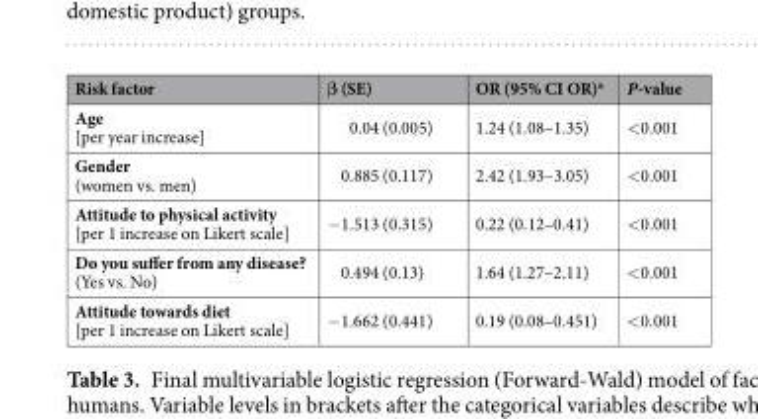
<table><thead><tr><td>Risk factor</td><td>β (SE)</td><td>OR (95% CI OR)<sup>a</sup></td><td>P-value</td></tr></thead><tbody><tr><td>Age [per year increase]</td><td>0.04 (0.005)</td><td>1.24 (1.08–1.35)</td><td>&lt;0.001</td></tr><tr><td>Gender (women vs. men)</td><td>0.885 (0.117)</td><td>2.42 (1.93–3.05)</td><td>&lt;0.001</td></tr><tr><td>Attitude to physical activity [per 1 increase on Likert scale]</td><td>−1.513 (0.315)</td><td>0.22 (0.12–0.41)</td><td>&lt;0.001</td></tr><tr><td>Do you suffer from any disease? (Yes vs. No)</td><td>0.494 (0.13)</td><td>1.64 (1.27–2.11)</td><td>&lt;0.001</td></tr><tr><td>Attitude towards diet [per 1 increase on Likert scale]</td><td>−1.662 (0.441)</td><td>0.19 (0.08–0.451)</td><td>&lt;0.001</td></tr></tbody></table>